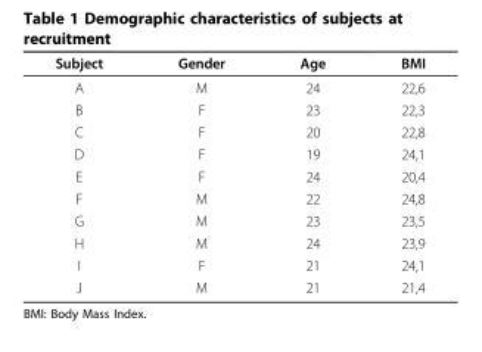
<table><thead><tr><td>Subject</td><td>Gender</td><td>Age</td><td>BMI</td></tr></thead><tbody><tr><td>A</td><td>M</td><td>24</td><td>22,6</td></tr><tr><td>B</td><td>F</td><td>23</td><td>22,3</td></tr><tr><td>C</td><td>F</td><td>20</td><td>22,8</td></tr><tr><td>D</td><td>F</td><td>19</td><td>24,1</td></tr><tr><td>E</td><td>F</td><td>24</td><td>20,4</td></tr><tr><td>F</td><td>M</td><td>22</td><td>24,8</td></tr><tr><td>G</td><td>M</td><td>23</td><td>23,5</td></tr><tr><td>H</td><td>M</td><td>24</td><td>23,9</td></tr><tr><td>I</td><td>F</td><td>21</td><td>24,1</td></tr><tr><td>J</td><td>M</td><td>21</td><td>21,4</td></tr></tbody></table>